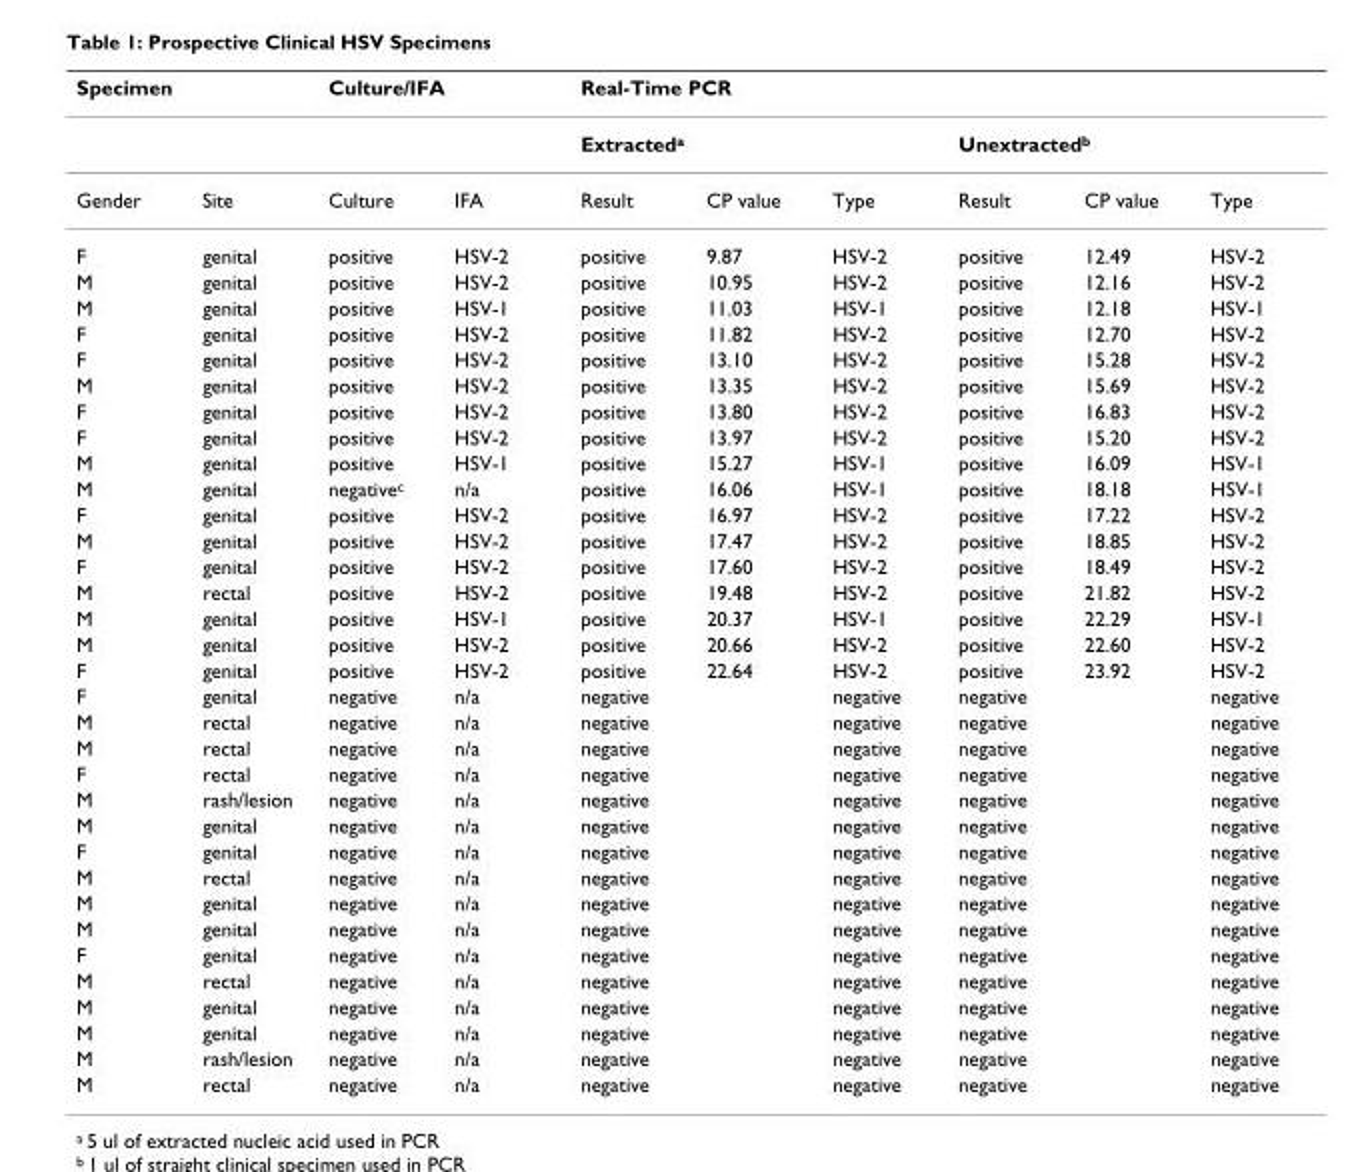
<table><thead><tr><td colspan="2">Specimen</td><td colspan="2">Culture/IFA</td><td colspan="6">Real-Time PCR</td></tr><tr><td rowspan="2">Gender</td><td rowspan="2">Site</td><td rowspan="2">Culture</td><td rowspan="2">IFA</td><td colspan="3">Extracted<sup>a</sup></td><td colspan="3">Unextracted<sup>b</sup></td></tr><tr><td>Result</td><td>CP value</td><td>Type</td><td>Result</td><td>CP value</td><td>Type</td></tr></thead><tbody><tr><td>F</td><td>genital</td><td>positive</td><td>HSV-2</td><td>positive</td><td>9.87</td><td>HSV-2</td><td>positive</td><td>12.49</td><td>HSV-2</td></tr><tr><td>M</td><td>genital</td><td>positive</td><td>HSV-2</td><td>positive</td><td>10.95</td><td>HSV-2</td><td>positive</td><td>12.16</td><td>HSV-2</td></tr><tr><td>M</td><td>genital</td><td>positive</td><td>HSV-1</td><td>positive</td><td>11.03</td><td>HSV-1</td><td>positive</td><td>12.18</td><td>HSV-1</td></tr><tr><td>F</td><td>genital</td><td>positive</td><td>HSV-2</td><td>positive</td><td>11.82</td><td>HSV-2</td><td>positive</td><td>12.70</td><td>HSV-2</td></tr><tr><td>F</td><td>genital</td><td>positive</td><td>HSV-2</td><td>positive</td><td>13.10</td><td>HSV-2</td><td>positive</td><td>15.28</td><td>HSV-2</td></tr><tr><td>M</td><td>genital</td><td>positive</td><td>HSV-2</td><td>positive</td><td>13.35</td><td>HSV-2</td><td>positive</td><td>15.69</td><td>HSV-2</td></tr><tr><td>F</td><td>genital</td><td>positive</td><td>HSV-2</td><td>positive</td><td>13.80</td><td>HSV-2</td><td>positive</td><td>16.83</td><td>HSV-2</td></tr><tr><td>F</td><td>genital</td><td>positive</td><td>HSV-2</td><td>positive</td><td>13.97</td><td>HSV-2</td><td>positive</td><td>15.20</td><td>HSV-2</td></tr><tr><td>M</td><td>genital</td><td>positive</td><td>HSV-1</td><td>positive</td><td>15.27</td><td>HSV-1</td><td>positive</td><td>16.09</td><td>HSV-1</td></tr><tr><td>M</td><td>genital</td><td>negative<sup>c</sup></td><td>n/a</td><td>positive</td><td>16.06</td><td>HSV-1</td><td>positive</td><td>18.18</td><td>HSV-1</td></tr><tr><td>F</td><td>genital</td><td>positive</td><td>HSV-2</td><td>positive</td><td>16.97</td><td>HSV-2</td><td>positive</td><td>17.22</td><td>HSV-2</td></tr><tr><td>M</td><td>genital</td><td>positive</td><td>HSV-2</td><td>positive</td><td>17.47</td><td>HSV-2</td><td>positive</td><td>18.85</td><td>HSV-2</td></tr><tr><td>F</td><td>genital</td><td>positive</td><td>HSV-2</td><td>positive</td><td>17.60</td><td>HSV-2</td><td>positive</td><td>18.49</td><td>HSV-2</td></tr><tr><td>M</td><td>rectal</td><td>positive</td><td>HSV-2</td><td>positive</td><td>19.48</td><td>HSV-2</td><td>positive</td><td>21.82</td><td>HSV-2</td></tr><tr><td>M</td><td>genital</td><td>positive</td><td>HSV-1</td><td>positive</td><td>20.37</td><td>HSV-1</td><td>positive</td><td>22.29</td><td>HSV-1</td></tr><tr><td>M</td><td>genital</td><td>positive</td><td>HSV-2</td><td>positive</td><td>20.66</td><td>HSV-2</td><td>positive</td><td>22.60</td><td>HSV-2</td></tr><tr><td>F</td><td>genital</td><td>positive</td><td>HSV-2</td><td>positive</td><td>22.64</td><td>HSV-2</td><td>positive</td><td>23.92</td><td>HSV-2</td></tr><tr><td>F</td><td>genital</td><td>negative</td><td>n/a</td><td>negative</td><td></td><td>negative</td><td>negative</td><td></td><td>negative</td></tr><tr><td>M</td><td>rectal</td><td>negative</td><td>n/a</td><td>negative</td><td></td><td>negative</td><td>negative</td><td></td><td>negative</td></tr><tr><td>M</td><td>rectal</td><td>negative</td><td>n/a</td><td>negative</td><td></td><td>negative</td><td>negative</td><td></td><td>negative</td></tr><tr><td>F</td><td>rectal</td><td>negative</td><td>n/a</td><td>negative</td><td></td><td>negative</td><td>negative</td><td></td><td>negative</td></tr><tr><td>M</td><td>rash/lesion</td><td>negative</td><td>n/a</td><td>negative</td><td></td><td>negative</td><td>negative</td><td></td><td>negative</td></tr><tr><td>M</td><td>genital</td><td>negative</td><td>n/a</td><td>negative</td><td></td><td>negative</td><td>negative</td><td></td><td>negative</td></tr><tr><td>F</td><td>genital</td><td>negative</td><td>n/a</td><td>negative</td><td></td><td>negative</td><td>negative</td><td></td><td>negative</td></tr><tr><td>M</td><td>rectal</td><td>negative</td><td>n/a</td><td>negative</td><td></td><td>negative</td><td>negative</td><td></td><td>negative</td></tr><tr><td>M</td><td>genital</td><td>negative</td><td>n/a</td><td>negative</td><td></td><td>negative</td><td>negative</td><td></td><td>negative</td></tr><tr><td>M</td><td>genital</td><td>negative</td><td>n/a</td><td>negative</td><td></td><td>negative</td><td>negative</td><td></td><td>negative</td></tr><tr><td>F</td><td>genital</td><td>negative</td><td>n/a</td><td>negative</td><td></td><td>negative</td><td>negative</td><td></td><td>negative</td></tr><tr><td>M</td><td>rectal</td><td>negative</td><td>n/a</td><td>negative</td><td></td><td>negative</td><td>negative</td><td></td><td>negative</td></tr><tr><td>M</td><td>genital</td><td>negative</td><td>n/a</td><td>negative</td><td></td><td>negative</td><td>negative</td><td></td><td>negative</td></tr><tr><td>M</td><td>genital</td><td>negative</td><td>n/a</td><td>negative</td><td></td><td>negative</td><td>negative</td><td></td><td>negative</td></tr><tr><td>M</td><td>rash/lesion</td><td>negative</td><td>n/a</td><td>negative</td><td></td><td>negative</td><td>negative</td><td></td><td>negative</td></tr><tr><td>M</td><td>rectal</td><td>negative</td><td>n/a</td><td>negative</td><td></td><td>negative</td><td>negative</td><td></td><td>negative</td></tr></tbody></table>